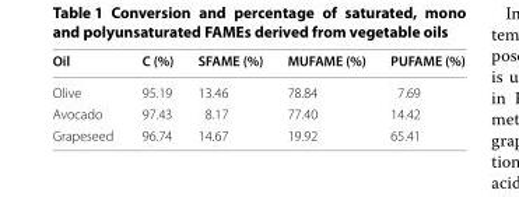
<table><thead><tr><td>Oil</td><td>C (%)</td><td>SFAME (%)</td><td>MUFAME (%)</td><td>PUFAME (%)</td></tr></thead><tbody><tr><td>Olive</td><td>95.19</td><td>13.46</td><td>78.84</td><td>7.69</td></tr><tr><td>Avocado</td><td>97.43</td><td>8.17</td><td>77.40</td><td>14.42</td></tr><tr><td>Grapeseed</td><td>96.74</td><td>14.67</td><td>19.92</td><td>65.41</td></tr></tbody></table>